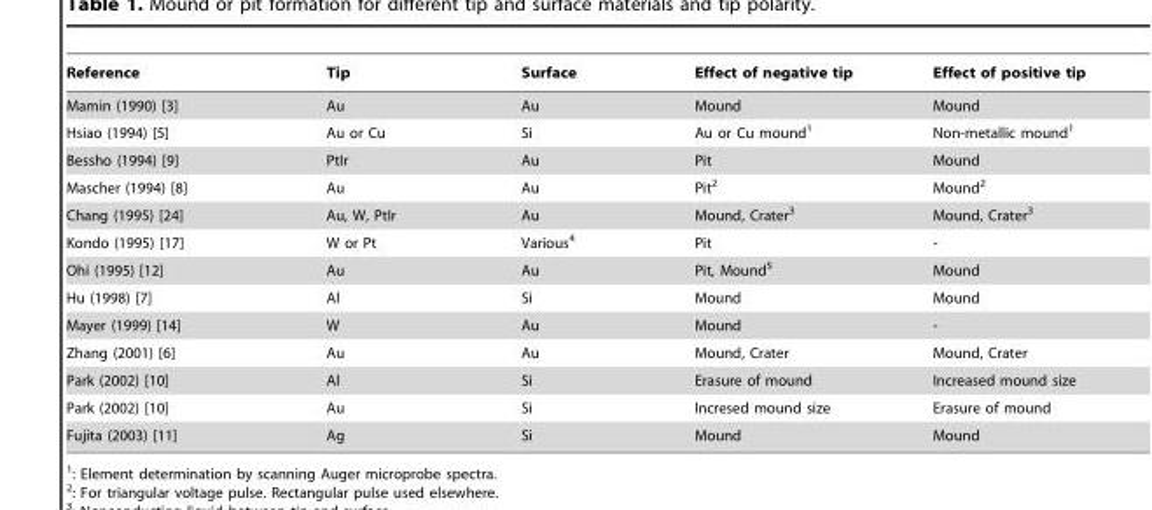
<table><thead><tr><td>Reference</td><td>Tip</td><td>Surface</td><td>Effect of negative tip</td><td>Effect of positive tip</td></tr></thead><tbody><tr><td>Mamin (1990) [3]</td><td>Au</td><td>Au</td><td>Mound</td><td>Mound</td></tr><tr><td>Hsiao (1994) [5]</td><td>Au or Cu</td><td>Si</td><td>Au or Cu mound<sup>1</sup></td><td>Non-metallic mound<sup>1</sup></td></tr><tr><td>Bessho (1994) [9]</td><td>PtIr</td><td>Au</td><td>Pit</td><td>Mound</td></tr><tr><td>Mascher (1994) [8]</td><td>Au</td><td>Au</td><td>Pit<sup>2</sup></td><td>Mound<sup>2</sup></td></tr><tr><td>Chang (1995) [24]</td><td>Au, W, PtIr</td><td>Au</td><td>Mound, Crater<sup>3</sup></td><td>Mound, Crater<sup>3</sup></td></tr><tr><td>Kondo (1995) [17]</td><td>W or Pt</td><td>Various<sup>4</sup></td><td>Pit</td><td>-</td></tr><tr><td>Ohi (1995) [12]</td><td>Au</td><td>Au</td><td>Pit, Mound<sup>5</sup></td><td>Mound</td></tr><tr><td>Hu (1998) [7]</td><td>Al</td><td>Si</td><td>Mound</td><td>Mound</td></tr><tr><td>Mayer (1999) [14]</td><td>W</td><td>Au</td><td>Mound</td><td>-</td></tr><tr><td>Zhang (2001) [6]</td><td>Au</td><td>Au</td><td>Mound, Crater</td><td>Mound, Crater</td></tr><tr><td>Park (2002) [10]</td><td>Al</td><td>Si</td><td>Erasure of mound</td><td>Increased mound size</td></tr><tr><td>Park (2002) [10]</td><td>Au</td><td>Si</td><td>Incresed mound size</td><td>Erasure of mound</td></tr><tr><td>Fujita (2003) [11]</td><td>Ag</td><td>Si</td><td>Mound</td><td>Mound</td></tr></tbody></table>